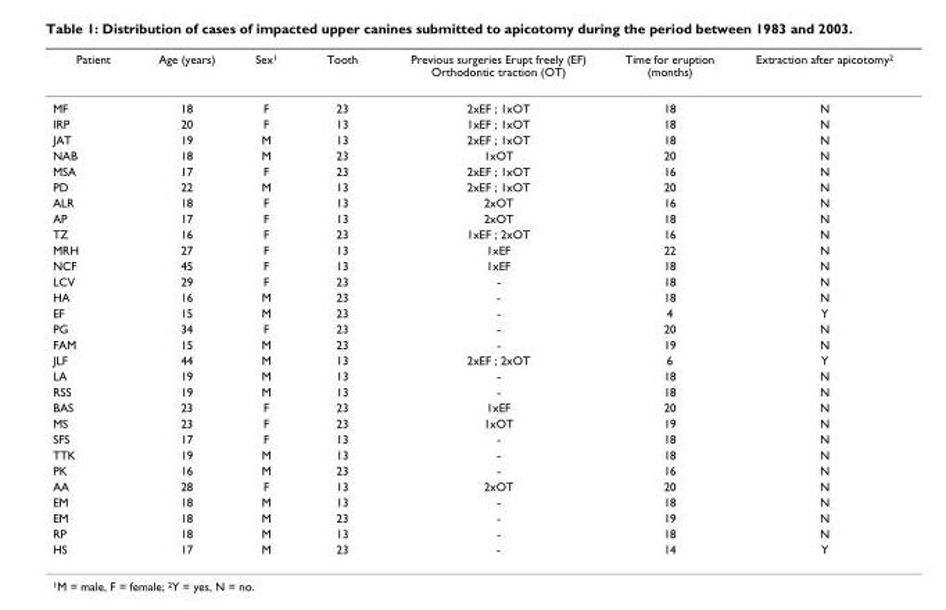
<table><thead><tr><td>Patient</td><td>Age (years)</td><td>Sex<sup>1</sup></td><td>Tooth</td><td>Previous surgeries Erupt freely (EF) Orthodontic traction (OT)</td><td>Time for eruption (months)</td><td>Extraction after apicotomy<sup>2</sup></td></tr></thead><tbody><tr><td>MF</td><td>18</td><td>F</td><td>23</td><td>2xEF ; 1xOT</td><td>18</td><td>N</td></tr><tr><td>IRP</td><td>20</td><td>F</td><td>13</td><td>1xEF ; 1xOT</td><td>18</td><td>N</td></tr><tr><td>JAT</td><td>19</td><td>M</td><td>13</td><td>2xEF ; 1xOT</td><td>18</td><td>N</td></tr><tr><td>NAB</td><td>18</td><td>M</td><td>23</td><td>1xOT</td><td>20</td><td>N</td></tr><tr><td>MSA</td><td>17</td><td>F</td><td>23</td><td>2xEF ; 1xOT</td><td>16</td><td>N</td></tr><tr><td>PD</td><td>22</td><td>M</td><td>13</td><td>2xEF ; 1xOT</td><td>20</td><td>N</td></tr><tr><td>ALR</td><td>18</td><td>F</td><td>13</td><td>2xOT</td><td>16</td><td>N</td></tr><tr><td>AP</td><td>17</td><td>F</td><td>13</td><td>2xOT</td><td>18</td><td>N</td></tr><tr><td>TZ</td><td>16</td><td>F</td><td>23</td><td>1xEF ; 2xOT</td><td>16</td><td>N</td></tr><tr><td>MRH</td><td>27</td><td>F</td><td>13</td><td>1xEF</td><td>22</td><td>N</td></tr><tr><td>NCF</td><td>45</td><td>F</td><td>13</td><td>1xEF</td><td>18</td><td>N</td></tr><tr><td>LCV</td><td>29</td><td>F</td><td>23</td><td>-</td><td>18</td><td>N</td></tr><tr><td>HA</td><td>16</td><td>M</td><td>23</td><td>-</td><td>18</td><td>N</td></tr><tr><td>EF</td><td>15</td><td>M</td><td>23</td><td>-</td><td>4</td><td>Y</td></tr><tr><td>PG</td><td>34</td><td>F</td><td>23</td><td>-</td><td>20</td><td>N</td></tr><tr><td>FAM</td><td>15</td><td>M</td><td>23</td><td>-</td><td>19</td><td>N</td></tr><tr><td>JLF</td><td>44</td><td>M</td><td>13</td><td>2xEF ; 2xOT</td><td>6</td><td>Y</td></tr><tr><td>LA</td><td>19</td><td>M</td><td>13</td><td>-</td><td>18</td><td>N</td></tr><tr><td>RSS</td><td>19</td><td>M</td><td>13</td><td>-</td><td>18</td><td>N</td></tr><tr><td>BAS</td><td>23</td><td>F</td><td>23</td><td>1xEF</td><td>20</td><td>N</td></tr><tr><td>MS</td><td>23</td><td>F</td><td>23</td><td>1xOT</td><td>19</td><td>N</td></tr><tr><td>SFS</td><td>17</td><td>F</td><td>13</td><td>-</td><td>18</td><td>N</td></tr><tr><td>TTK</td><td>19</td><td>M</td><td>13</td><td>-</td><td>18</td><td>N</td></tr><tr><td>PK</td><td>16</td><td>M</td><td>23</td><td>-</td><td>16</td><td>N</td></tr><tr><td>AA</td><td>28</td><td>F</td><td>13</td><td>2xOT</td><td>20</td><td>N</td></tr><tr><td>EM</td><td>18</td><td>M</td><td>13</td><td>-</td><td>18</td><td>N</td></tr><tr><td>EM</td><td>18</td><td>M</td><td>23</td><td>-</td><td>19</td><td>N</td></tr><tr><td>RP</td><td>18</td><td>M</td><td>13</td><td>-</td><td>18</td><td>N</td></tr><tr><td>HS</td><td>17</td><td>M</td><td>23</td><td>-</td><td>14</td><td>Y</td></tr></tbody></table>